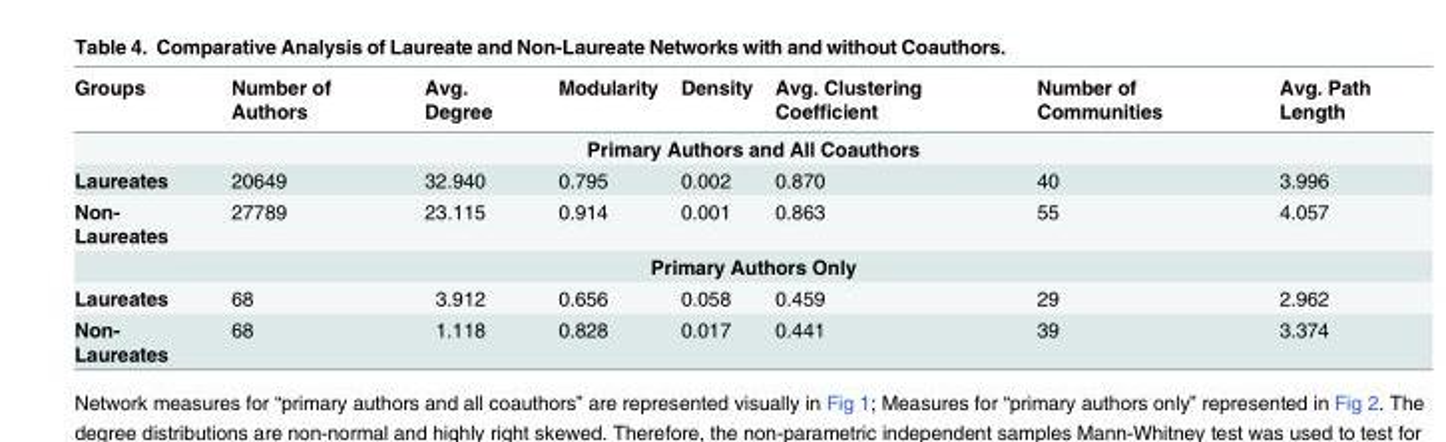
<table><thead><tr><td>Groups</td><td>Number of Authors</td><td>Avg. Degree</td><td>Modularity</td><td>Density</td><td>Avg. Clustering Coefficient</td><td>Number of Communities</td><td>Avg. Path Length</td></tr></thead><tbody><tr><td colspan="8">Primary Authors and All Coauthors</td></tr><tr><td>Laureates</td><td>20649</td><td>32.940</td><td>0.795</td><td>0.002</td><td>0.870</td><td>40</td><td>3.996</td></tr><tr><td>Non- Laureates</td><td>27789</td><td>23.115</td><td>0.914</td><td>0.001</td><td>0.863</td><td>55</td><td>4.057</td></tr><tr><td colspan="8">Primary Authors Only</td></tr><tr><td>Laureates</td><td>68</td><td>3.912</td><td>0.656</td><td>0.058</td><td>0.459</td><td>29</td><td>2.962</td></tr><tr><td>Non- Laureates</td><td>68</td><td>1.118</td><td>0.828</td><td>0.017</td><td>0.441</td><td>39</td><td>3.374</td></tr></tbody></table>